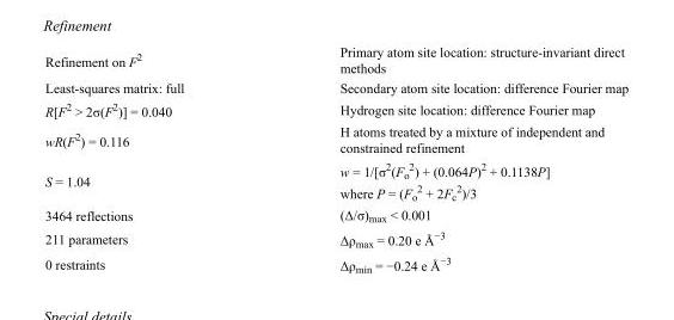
<table><tbody><tr><td>Refinement on F<sup>2</sup></td><td>Primary atom site location: structure-invariant direct methods</td></tr><tr><td>Least-squares matrix: full</td><td>Secondary atom site location: difference Fourier map</td></tr><tr><td>R[F<sup>2</sup> &gt; 2σ(F<sup>2</sup>)] = 0.040</td><td>Hydrogen site location: difference Fourier map</td></tr><tr><td>wR(F<sup>2</sup>) = 0.116</td><td>H atoms treated by a mixture of independent and constrained refinement</td></tr><tr><td>S = 1.04</td><td>w = 1/[σ<sup>2</sup>(F<sub>o</sub> <sup>2</sup>) + (0.064P)<sup>2</sup> + 0.1138P] where P = (F<sub>o</sub> <sup>2</sup> + 2F<sub>c</sub> <sup>2</sup>)/3</td></tr><tr><td>3464 reflections</td><td>(Δ/σ)<sub>max</sub> &lt; 0.001</td></tr><tr><td>211 parameters</td><td>Δρ<sub>max</sub> = 0.20 e Å<sup>−3</sup></td></tr><tr><td>0 restraints</td><td>Δρ<sub>min</sub> = −0.24 e Å<sup>−3</sup></td></tr></tbody></table>